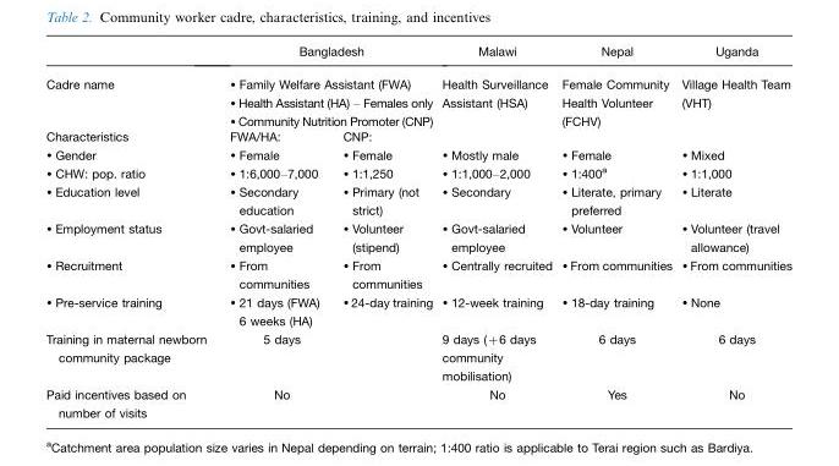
<table><thead><tr><td rowspan="3">Cadre name Characteristics</td><td rowspan="2" colspan="2">Bangladesh • Family Welfare Assistant (FWA) • Health Assistant (HA) – Females only • Community Nutrition Promoter (CNP)</td><td rowspan="3">Malawi Health Surveillance Assistant (HSA)</td><td rowspan="3">Nepal Female Community Health Volunteer (FCHV)</td><td rowspan="3">Uganda Village Health Team (VHT)</td></tr><tr></tr><tr><td>FWA/HA:</td><td>CNP:</td></tr></thead><tbody><tr><td>• Gender</td><td>• Female</td><td>• Female</td><td>• Mostly male</td><td>• Female</td><td>• Mixed</td></tr><tr><td>• CHW: pop. ratio</td><td>• 1:6,000–7,000</td><td>• 1:1,250</td><td>• 1:1,000–2,000</td><td>• 1:400<sup>a</sup></td><td>• 1:1,000</td></tr><tr><td>• Education level</td><td>• Secondary education</td><td>• Primary (not strict)</td><td>• Secondary</td><td>• Literate, primary preferred</td><td>• Literate</td></tr><tr><td>• Employment status</td><td>• Govt-salaried employee</td><td>• Volunteer (stipend)</td><td>• Govt-salaried employee</td><td>• Volunteer</td><td>• Volunteer (travel allowance)</td></tr><tr><td>• Recruitment</td><td>• From communities</td><td>• From communities</td><td>• Centrally recruited</td><td>• From communities</td><td>• From communities</td></tr><tr><td>• Pre-service training</td><td>• 21 days (FWA) 6 weeks (HA)</td><td>• 24-day training</td><td>• 12-week training</td><td>• 18-day training</td><td>• None</td></tr><tr><td>Training in maternal newborn community package</td><td>5 days</td><td></td><td>9 days (+6 days community mobilisation)</td><td>6 days</td><td>6 days</td></tr><tr><td>Paid incentives based on number of visits</td><td>No</td><td></td><td>No</td><td>Yes</td><td>No</td></tr></tbody></table>